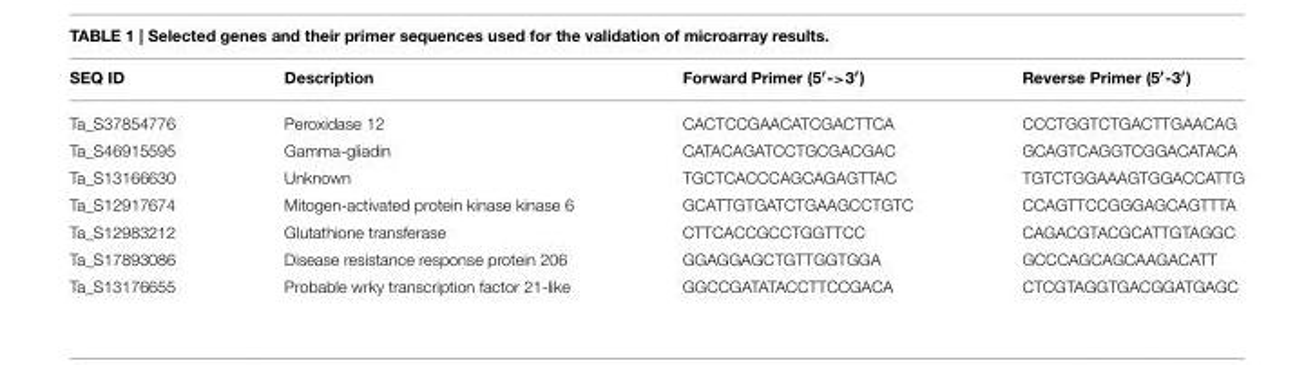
<table><thead><tr><td>SEQ ID</td><td>Description</td><td>Forward Primer (5′-&gt;3′)</td><td>Reverse Primer (5′-3′)</td></tr></thead><tbody><tr><td>Ta_S37854776</td><td>Peroxidase 12</td><td>CACTCCGAACATCGACTTCA</td><td>CCCTGGTCTGACTTGAACAG</td></tr><tr><td>Ta_S46915595</td><td>Gamma-gliadin</td><td>CATACAGATCCTGCGACGAC</td><td>GCAGTCAGGTCGGACATACA</td></tr><tr><td>Ta_S13166630</td><td>Unknown</td><td>TGCTCACCCAGCAGAGTTAC</td><td>TGTCTGGAAAGTGGACCATTG</td></tr><tr><td>Ta_S12917674</td><td>Mitogen-activated protein kinase kinase 6</td><td>GCATTGTGATCTGAAGCCTGTC</td><td>CCAGTTCCGGGAGCAGTTTA</td></tr><tr><td>Ta_S12983212</td><td>Glutathione transferase</td><td>CTTCACCGCCTGGTTCC</td><td>CAGACGTACGCATTGTAGGC</td></tr><tr><td>Ta_S17893086</td><td>Disease resistance response protein 206</td><td>GGAGGAGCTGTTGGTGGA</td><td>GCCCAGCAGCAAGACATT</td></tr><tr><td>Ta_S13176655</td><td>Probable wrky transcription factor 21-like</td><td>GGCCGATATACCTTCCGACA</td><td>CTCGTAGGTGACGGATGAGC</td></tr></tbody></table>